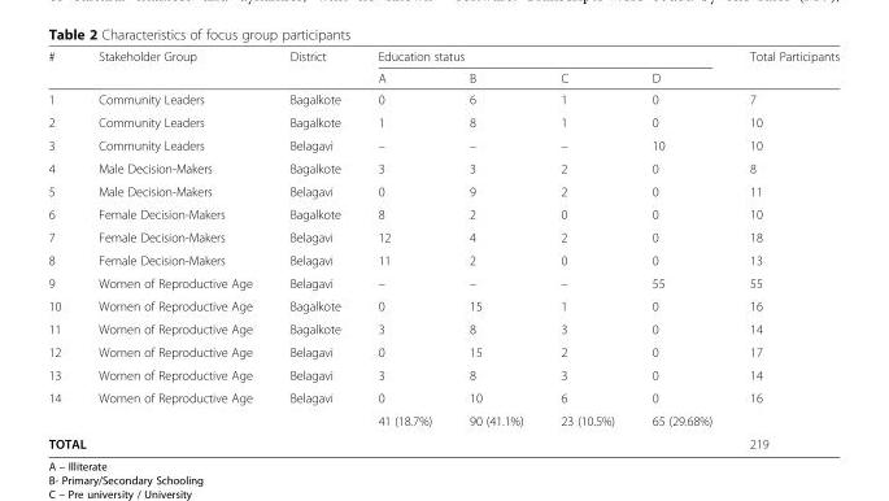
<table><thead><tr><td rowspan="2">#</td><td rowspan="2">Stakeholder Group</td><td rowspan="2">District</td><td colspan="4">Education status</td><td rowspan="2">Total Participants</td></tr><tr><td>A</td><td>B</td><td>C</td><td>D</td></tr></thead><tbody><tr><td>1</td><td>Community Leaders</td><td>Bagalkote</td><td>0</td><td>6</td><td>1</td><td>0</td><td>7</td></tr><tr><td>2</td><td>Community Leaders</td><td>Bagalkote</td><td>1</td><td>8</td><td>1</td><td>0</td><td>10</td></tr><tr><td>3</td><td>Community Leaders</td><td>Belagavi</td><td>–</td><td>–</td><td>–</td><td>10</td><td>10</td></tr><tr><td>4</td><td>Male Decision-Makers</td><td>Bagalkote</td><td>3</td><td>3</td><td>2</td><td>0</td><td>8</td></tr><tr><td>5</td><td>Male Decision-Makers</td><td>Belagavi</td><td>0</td><td>9</td><td>2</td><td>0</td><td>11</td></tr><tr><td>6</td><td>Female Decision-Makers</td><td>Bagalkote</td><td>8</td><td>2</td><td>0</td><td>0</td><td>10</td></tr><tr><td>7</td><td>Female Decision-Makers</td><td>Belagavi</td><td>12</td><td>4</td><td>2</td><td>0</td><td>18</td></tr><tr><td>8</td><td>Female Decision-Makers</td><td>Belagavi</td><td>11</td><td>2</td><td>0</td><td>0</td><td>13</td></tr><tr><td>9</td><td>Women of Reproductive Age</td><td>Belagavi</td><td>–</td><td>–</td><td>–</td><td>55</td><td>55</td></tr><tr><td>10</td><td>Women of Reproductive Age</td><td>Bagalkote</td><td>0</td><td>15</td><td>1</td><td>0</td><td>16</td></tr><tr><td>11</td><td>Women of Reproductive Age</td><td>Bagalkote</td><td>3</td><td>8</td><td>3</td><td>0</td><td>14</td></tr><tr><td>12</td><td>Women of Reproductive Age</td><td>Belagavi</td><td>0</td><td>15</td><td>2</td><td>0</td><td>17</td></tr><tr><td>13</td><td>Women of Reproductive Age</td><td>Belagavi</td><td>3</td><td>8</td><td>3</td><td>0</td><td>14</td></tr><tr><td>14</td><td>Women of Reproductive Age</td><td>Belagavi</td><td>0</td><td>10</td><td>6</td><td>0</td><td>16</td></tr><tr><td colspan="3"></td><td>41 (18.7%)</td><td>90 (41.1%)</td><td>23 (10.5%)</td><td>65 (29.68%)</td><td></td></tr><tr><td colspan="3">TOTAL</td><td></td><td></td><td></td><td></td><td>219</td></tr></tbody></table>